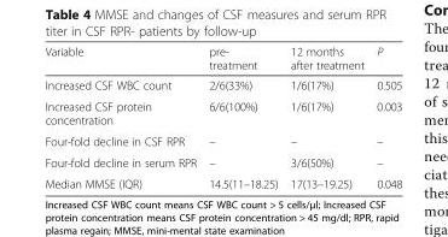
<table><thead><tr><td>Variable</td><td>pre- treatment</td><td>12 months after treatment</td><td>P</td></tr></thead><tbody><tr><td>Increased CSF WBC count</td><td>2/6(33%)</td><td>1/6(17%)</td><td>0.505</td></tr><tr><td>Increased CSF protein concentration</td><td>6/6(100%)</td><td>1/6(17%)</td><td>0.003</td></tr><tr><td>Four-fold decline in CSF RPR</td><td>–</td><td>–</td><td>–</td></tr><tr><td>Four-fold decline in serum RPR</td><td>–</td><td>3/6(50%)</td><td>–</td></tr><tr><td>Median MMSE (IQR)</td><td>14.5(11–18.25)</td><td>17(13–19.25)</td><td>0.048</td></tr></tbody></table>